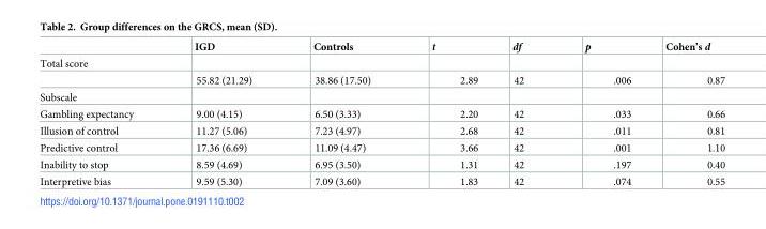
<table><thead><tr><td></td><td>IGD</td><td>Controls</td><td>t</td><td>df</td><td>p</td><td>Cohen’s d</td></tr></thead><tbody><tr><td colspan="7">Total score</td></tr><tr><td></td><td>55.82 (21.29)</td><td>38.86 (17.50)</td><td>2.89</td><td>42</td><td>.006</td><td>0.87</td></tr><tr><td colspan="7">Subscale</td></tr><tr><td>Gambling expectancy</td><td>9.00 (4.15)</td><td>6.50 (3.33)</td><td>2.20</td><td>42</td><td>.033</td><td>0.66</td></tr><tr><td>Illusion of control</td><td>11.27 (5.06)</td><td>7.23 (4.97)</td><td>2.68</td><td>42</td><td>.011</td><td>0.81</td></tr><tr><td>Predictive control</td><td>17.36 (6.69)</td><td>11.09 (4.47)</td><td>3.66</td><td>42</td><td>.001</td><td>1.10</td></tr><tr><td>Inability to stop</td><td>8.59 (4.69)</td><td>6.95 (3.50)</td><td>1.31</td><td>42</td><td>.197</td><td>0.40</td></tr><tr><td>Interpretive bias</td><td>9.59 (5.30)</td><td>7.09 (3.60)</td><td>1.83</td><td>42</td><td>.074</td><td>0.55</td></tr></tbody></table>